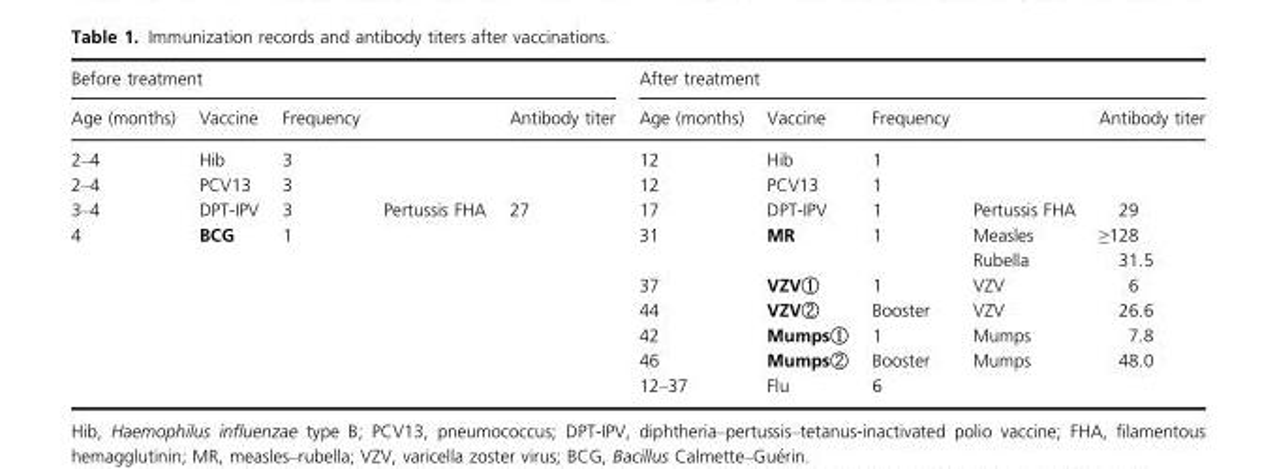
<table><thead><tr><td colspan="5">Before treatment</td><td colspan="5">After treatment</td></tr><tr><td>Age (months)</td><td>Vaccine</td><td>Frequency</td><td></td><td>Antibody titer</td><td>Age (months)</td><td>Vaccine</td><td>Frequency</td><td></td><td>Antibody titer</td></tr></thead><tbody><tr><td>2–4</td><td>Hib</td><td>3</td><td></td><td></td><td>12</td><td>Hib</td><td>1</td><td></td><td></td></tr><tr><td>2–4</td><td>PCV13</td><td>3</td><td></td><td></td><td>12</td><td>PCV13</td><td>1</td><td></td><td></td></tr><tr><td>3–4</td><td>DPT-IPV</td><td>3</td><td>Pertussis FHA</td><td>27</td><td>17</td><td>DPT-IPV</td><td>1</td><td>Pertussis FHA</td><td>29</td></tr><tr><td rowspan="7">4</td><td>BCG</td><td>1</td><td></td><td></td><td>31</td><td>MR</td><td>1</td><td>Measles</td><td>≥128</td></tr><tr><td></td><td></td><td></td><td></td><td></td><td></td><td></td><td>Rubella</td><td>31.5</td></tr><tr><td></td><td></td><td></td><td></td><td>37</td><td>VZV①</td><td>1</td><td>VZV</td><td>6</td></tr><tr><td></td><td></td><td></td><td></td><td>44</td><td>VZV②</td><td>Booster</td><td>VZV</td><td>26.6</td></tr><tr><td></td><td></td><td></td><td></td><td>42</td><td>Mumps①</td><td>1</td><td>Mumps</td><td>7.8</td></tr><tr><td></td><td></td><td></td><td></td><td>46</td><td>Mumps②</td><td>Booster</td><td>Mumps</td><td>48.0</td></tr><tr><td></td><td></td><td></td><td></td><td>12–37</td><td>Flu</td><td>6</td><td></td><td></td></tr></tbody></table>